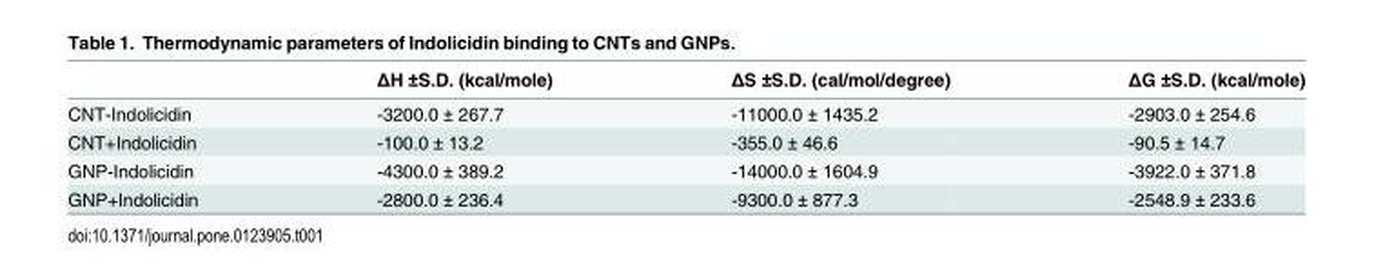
<table><thead><tr><td></td><td>ΔH ±S.D. (kcal/mole)</td><td>ΔS ±S.D. (cal/mol/degree)</td><td>ΔG ±S.D. (kcal/mole)</td></tr></thead><tbody><tr><td>CNT-Indolicidin</td><td>-3200.0 ± 267.7</td><td>-11000.0 ± 1435.2</td><td>-2903.0 ± 254.6</td></tr><tr><td>CNT+Indolicidin</td><td>-100.0 ± 13.2</td><td>-355.0 ± 46.6</td><td>-90.5 ± 14.7</td></tr><tr><td>GNP-Indolicidin</td><td>-4300.0 ± 389.2</td><td>-14000.0 ± 1604.9</td><td>-3922.0 ± 371.8</td></tr><tr><td>GNP+Indolicidin</td><td>-2800.0 ± 236.4</td><td>-9300.0 ± 877.3</td><td>-2548.9 ± 233.6</td></tr></tbody></table>